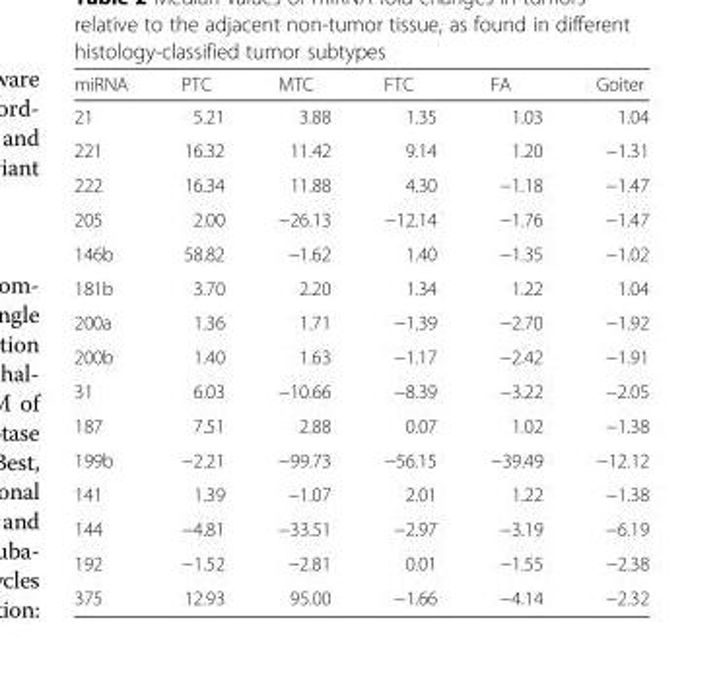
<table><thead><tr><td>miRNA</td><td>PTC</td><td>MTC</td><td>FTC</td><td>FA</td><td>Goiter</td></tr></thead><tbody><tr><td>21</td><td>5.21</td><td>3.88</td><td>1.35</td><td>1.03</td><td>1.04</td></tr><tr><td>221</td><td>16.32</td><td>11.42</td><td>9.14</td><td>1.20</td><td>−1.31</td></tr><tr><td>222</td><td>16.34</td><td>11.88</td><td>4.30</td><td>−1.18</td><td>−1.47</td></tr><tr><td>205</td><td>2.00</td><td>−26.13</td><td>−12.14</td><td>−1.76</td><td>−1.47</td></tr><tr><td>146b</td><td>58.82</td><td>−1.62</td><td>1.40</td><td>−1.35</td><td>−1.02</td></tr><tr><td>181b</td><td>3.70</td><td>2.20</td><td>1.34</td><td>1.22</td><td>1.04</td></tr><tr><td>200a</td><td>1.36</td><td>1.71</td><td>−1.39</td><td>−2.70</td><td>−1.92</td></tr><tr><td>200b</td><td>1.40</td><td>1.63</td><td>−1.17</td><td>−2.42</td><td>−1.91</td></tr><tr><td>31</td><td>6.03</td><td>−10.66</td><td>−8.39</td><td>−3.22</td><td>−2.05</td></tr><tr><td>187</td><td>7.51</td><td>2.88</td><td>0.07</td><td>1.02</td><td>−1.38</td></tr><tr><td>199b</td><td>−2.21</td><td>−99.73</td><td>−56.15</td><td>−39.49</td><td>−12.12</td></tr><tr><td>141</td><td>1.39</td><td>−1.07</td><td>2.01</td><td>1.22</td><td>−1.38</td></tr><tr><td>144</td><td>−4.81</td><td>−33.51</td><td>−2.97</td><td>−3.19</td><td>−6.19</td></tr><tr><td>192</td><td>−1.52</td><td>−2.81</td><td>0.01</td><td>−1.55</td><td>−2.38</td></tr><tr><td>375</td><td>12.93</td><td>95.00</td><td>−1.66</td><td>−4.14</td><td>−2.32</td></tr></tbody></table>